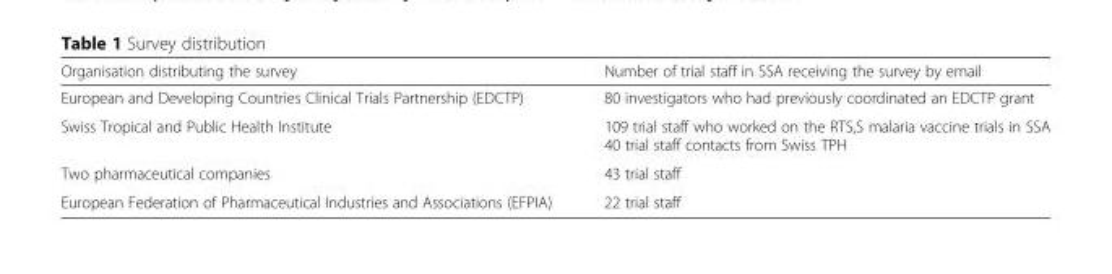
<table><thead><tr><td>Organisation distributing the survey</td><td>Number of trial staff in SSA receiving the survey by email</td></tr></thead><tbody><tr><td>European and Developing Countries Clinical Trials Partnership (EDCTP)</td><td>80 investigators who had previously coordinated an EDCTP grant</td></tr><tr><td>Swiss Tropical and Public Health Institute</td><td>109 trial staff who worked on the RTS,S malaria vaccine trials in SSA 40 trial staff contacts from Swiss TPH</td></tr><tr><td>Two pharmaceutical companies</td><td>43 trial staff</td></tr><tr><td>European Federation of Pharmaceutical Industries and Associations (EFPIA)</td><td>22 trial staff</td></tr></tbody></table>